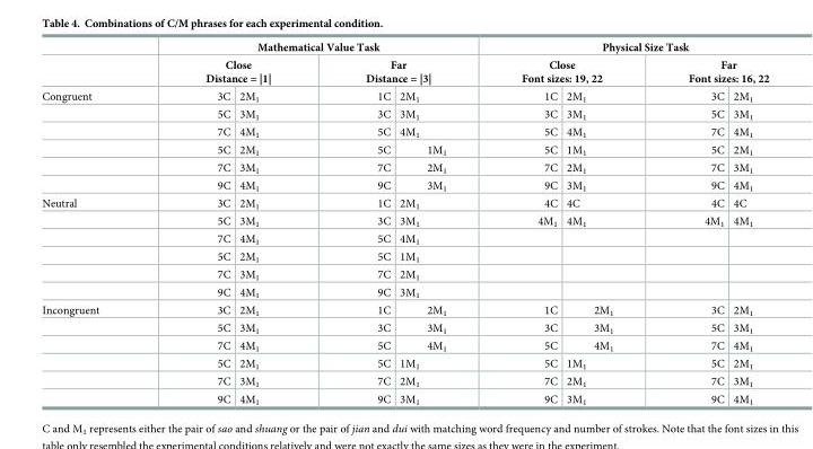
<table><thead><tr><td rowspan="3">Congruent</td><td colspan="4">Mathematical Value Task</td><td colspan="4">Physical Size Task</td></tr><tr><td colspan="2">Close Distance = |1|</td><td colspan="2">Far Distance = |3|</td><td colspan="2">Close Font sizes: 19, 22</td><td colspan="2">Far Font sizes: 16, 22</td></tr><tr><td>3C</td><td>2M<sub>1</sub></td><td>1C</td><td>2M<sub>1</sub></td><td>1C</td><td>2M<sub>1</sub></td><td>3C</td><td>2M<sub>1</sub></td></tr></thead><tbody><tr><td></td><td>5C</td><td>3M<sub>1</sub></td><td>3C</td><td>3M<sub>1</sub></td><td>3C</td><td>3M<sub>1</sub></td><td>5C</td><td>3M<sub>1</sub></td></tr><tr><td></td><td>7C</td><td>4M<sub>1</sub></td><td>5C</td><td>4M<sub>1</sub></td><td>5C</td><td>4M<sub>1</sub></td><td>7C</td><td>4M<sub>1</sub></td></tr><tr><td></td><td>5C</td><td>2M<sub>1</sub></td><td>5C</td><td>1M<sub>1</sub></td><td>5C</td><td>1M<sub>1</sub></td><td>5C</td><td>2M<sub>1</sub></td></tr><tr><td></td><td>7C</td><td>3M<sub>1</sub></td><td>7C</td><td>2M<sub>1</sub></td><td>7C</td><td>2M<sub>1</sub></td><td>7C</td><td>3M<sub>1</sub></td></tr><tr><td></td><td>9C</td><td>4M<sub>1</sub></td><td>9C</td><td>3M<sub>1</sub></td><td>9C</td><td>3M<sub>1</sub></td><td>9C</td><td>4M<sub>1</sub></td></tr><tr><td rowspan="6">Neutral</td><td>3C</td><td>2M<sub>1</sub></td><td>1C</td><td>2M<sub>1</sub></td><td>4C</td><td>4C</td><td>4C</td><td>4C</td></tr><tr><td>5C</td><td>3M<sub>1</sub></td><td>3C</td><td>3M<sub>1</sub></td><td>4M<sub>1</sub></td><td>4M<sub>1</sub></td><td>4M<sub>1</sub></td><td>4M<sub>1</sub></td></tr><tr><td>7C</td><td>4M<sub>1</sub></td><td>5C</td><td>4M<sub>1</sub></td><td></td><td></td><td></td><td></td></tr><tr><td>5C</td><td>2M<sub>1</sub></td><td>5C</td><td>1M<sub>1</sub></td><td></td><td></td><td></td><td></td></tr><tr><td>7C</td><td>3M<sub>1</sub></td><td>7C</td><td>2M<sub>1</sub></td><td></td><td></td><td></td><td></td></tr><tr><td>9C</td><td>4M<sub>1</sub></td><td>9C</td><td>3M<sub>1</sub></td><td></td><td></td><td></td><td></td></tr><tr><td rowspan="6">Incongruent</td><td>3C</td><td>2M<sub>1</sub></td><td>1C</td><td>2M<sub>1</sub></td><td>1C</td><td>2M<sub>1</sub></td><td>3C</td><td>2M<sub>1</sub></td></tr><tr><td>5C</td><td>3M<sub>1</sub></td><td>3C</td><td>3M<sub>1</sub></td><td>3C</td><td>3M<sub>1</sub></td><td>5C</td><td>3M<sub>1</sub></td></tr><tr><td>7C</td><td>4M<sub>1</sub></td><td>5C</td><td>4M<sub>1</sub></td><td>5C</td><td>4M<sub>1</sub></td><td>7C</td><td>4M<sub>1</sub></td></tr><tr><td>5C</td><td>2M<sub>1</sub></td><td>5C</td><td>1M<sub>1</sub></td><td>5C</td><td>1M<sub>1</sub></td><td>5C</td><td>2M<sub>1</sub></td></tr><tr><td>7C</td><td>3M<sub>1</sub></td><td>7C</td><td>2M<sub>1</sub></td><td>7C</td><td>2M<sub>1</sub></td><td>7C</td><td>3M<sub>1</sub></td></tr><tr><td>9C</td><td>4M<sub>1</sub></td><td>9C</td><td>3M<sub>1</sub></td><td>9C</td><td>3M<sub>1</sub></td><td>9C</td><td>4M<sub>1</sub></td></tr></tbody></table>